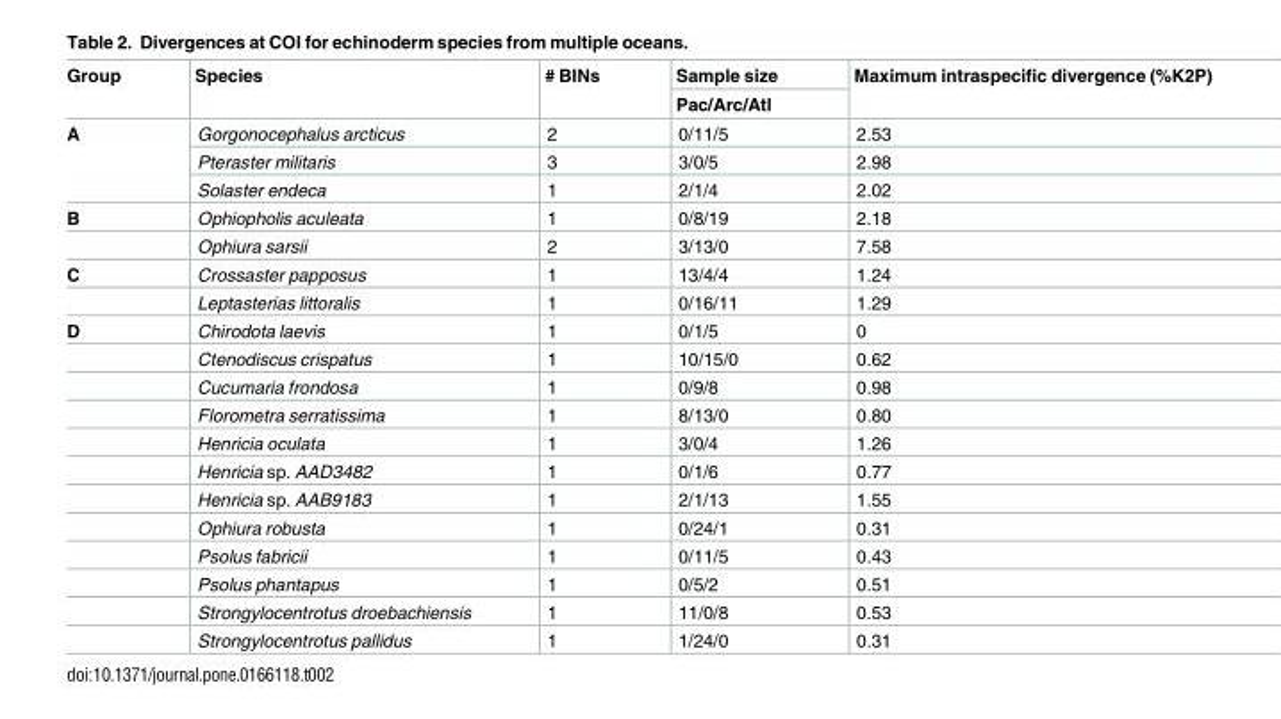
<table><thead><tr><td rowspan="2">Group</td><td rowspan="2">Species</td><td rowspan="2"># BINs</td><td rowspan="2">Sample size Pac/Arc/Atl</td><td rowspan="2">Maximum intraspecific divergence (%K2P)</td></tr><tr></tr></thead><tbody><tr><td rowspan="3">A</td><td>Gorgonocephalus arcticus</td><td>2</td><td>0/11/5</td><td>2.53</td></tr><tr><td>Pteraster militaris</td><td>3</td><td>3/0/5</td><td>2.98</td></tr><tr><td>Solaster endeca</td><td>1</td><td>2/1/4</td><td>2.02</td></tr><tr><td rowspan="2">B</td><td>Ophiopholis aculeata</td><td>1</td><td>0/8/19</td><td>2.18</td></tr><tr><td>Ophiura sarsii</td><td>2</td><td>3/13/0</td><td>7.58</td></tr><tr><td rowspan="2">C</td><td>Crossaster papposus</td><td>1</td><td>13/4/4</td><td>1.24</td></tr><tr><td>Leptasterias littoralis</td><td>1</td><td>0/16/11</td><td>1.29</td></tr><tr><td rowspan="12">D</td><td>Chirodota laevis</td><td>1</td><td>0/1/5</td><td>0</td></tr><tr><td>Ctenodiscus crispatus</td><td>1</td><td>10/15/0</td><td>0.62</td></tr><tr><td>Cucumaria frondosa</td><td>1</td><td>0/9/8</td><td>0.98</td></tr><tr><td>Florometra serratissima</td><td>1</td><td>8/13/0</td><td>0.80</td></tr><tr><td>Henricia oculata</td><td>1</td><td>3/0/4</td><td>1.26</td></tr><tr><td>Henricia sp. AAD3482</td><td>1</td><td>0/1/6</td><td>0.77</td></tr><tr><td>Henricia sp. AAB9183</td><td>1</td><td>2/1/13</td><td>1.55</td></tr><tr><td>Ophiura robusta</td><td>1</td><td>0/24/1</td><td>0.31</td></tr><tr><td>Psolus fabricii</td><td>1</td><td>0/11/5</td><td>0.43</td></tr><tr><td>Psolus phantapus</td><td>1</td><td>0/5/2</td><td>0.51</td></tr><tr><td>Strongylocentrotus droebachiensis</td><td>1</td><td>11/0/8</td><td>0.53</td></tr><tr><td>Strongylocentrotus pallidus</td><td>1</td><td>1/24/0</td><td>0.31</td></tr></tbody></table>